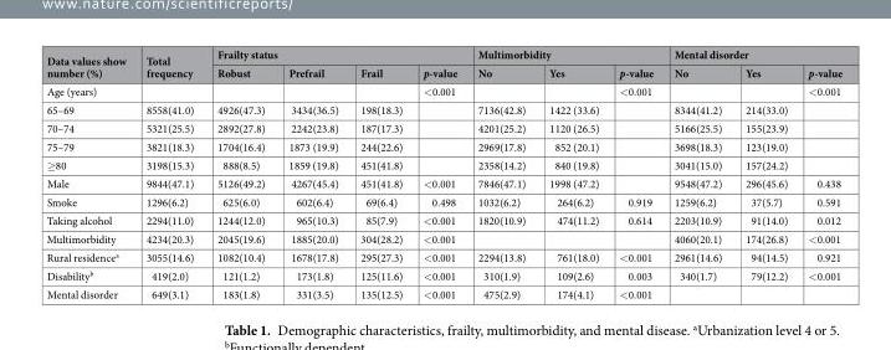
<table><thead><tr><td rowspan="2">Data values show number (%)</td><td rowspan="2">Total frequency</td><td colspan="4">Frailty status</td><td colspan="3">Multimorbidity</td><td colspan="3">Mental disorder</td></tr><tr><td>Robust</td><td>Prefrail</td><td>Frail</td><td>p-value</td><td>No</td><td>Yes</td><td>p-value</td><td>No</td><td>Yes</td><td>p-value</td></tr></thead><tbody><tr><td>Age (years)</td><td></td><td></td><td></td><td></td><td>&lt;0.001</td><td></td><td></td><td>&lt;0.001</td><td></td><td></td><td>&lt;0.001</td></tr><tr><td>65–69</td><td>8558(41.0)</td><td>4926(47.3)</td><td>3434(36.5)</td><td>198(18.3)</td><td></td><td>7136(42.8)</td><td>1422 (33.6)</td><td></td><td>8344(41.2)</td><td>214(33.0)</td><td></td></tr><tr><td>70–74</td><td>5321(25.5)</td><td>2892(27.8)</td><td>2242(23.8)</td><td>187(17.3)</td><td></td><td>4201(25.2)</td><td>1120 (26.5)</td><td></td><td>5166(25.5)</td><td>155(23.9)</td><td></td></tr><tr><td>75–79</td><td>3821(18.3)</td><td>1704(16.4)</td><td>1873 (19.9)</td><td>244(22.6)</td><td></td><td>2969(17.8)</td><td>852 (20.1)</td><td></td><td>3698(18.3)</td><td>123(19.0)</td><td></td></tr><tr><td>≥80</td><td>3198(15.3)</td><td>888(8.5)</td><td>1859 (19.8)</td><td>451(41.8)</td><td></td><td>2358(14.2)</td><td>840 (19.8)</td><td></td><td>3041(15.0)</td><td>157(24.2)</td><td></td></tr><tr><td>Male</td><td>9844(47.1)</td><td>5126(49.2)</td><td>4267(45.4)</td><td>451(41.8)</td><td>&lt;0.001</td><td>7846(47.1)</td><td>1998 (47.2)</td><td></td><td>9548(47.2)</td><td>296(45.6)</td><td>0.438</td></tr><tr><td>Smoke</td><td>1296(6.2)</td><td>625(6.0)</td><td>602(6.4)</td><td>69(6.4)</td><td>0.498</td><td>1032(6.2)</td><td>264(6.2)</td><td>0.919</td><td>1259(6.2)</td><td>37(5.7)</td><td>0.591</td></tr><tr><td>Taking alcohol</td><td>2294(11.0)</td><td>1244(12.0)</td><td>965(10.3)</td><td>85(7.9)</td><td>&lt;0.001</td><td>1820(10.9)</td><td>474(11.2)</td><td>0.614</td><td>2203(10.9)</td><td>91(14.0)</td><td>0.012</td></tr><tr><td>Multimorbidity</td><td>4234(20.3)</td><td>2045(19.6)</td><td>1885(20.0)</td><td>304(28.2)</td><td>&lt;0.001</td><td></td><td></td><td></td><td>4060(20.1)</td><td>174(26.8)</td><td>&lt;0.001</td></tr><tr><td>Rural residence<sup>a</sup></td><td>3055(14.6)</td><td>1082(10.4)</td><td>1678(17.8)</td><td>295(27.3)</td><td>&lt;0.001</td><td>2294(13.8)</td><td>761(18.0)</td><td>&lt;0.001</td><td>2961(14.6)</td><td>94(14.5)</td><td>0.921</td></tr><tr><td>Disability<sup>b</sup></td><td>419(2.0)</td><td>121(1.2)</td><td>173(1.8)</td><td>125(11.6)</td><td>&lt;0.001</td><td>310(1.9)</td><td>109(2.6)</td><td>0.003</td><td>340(1.7)</td><td>79(12.2)</td><td>&lt;0.001</td></tr><tr><td>Mental disorder</td><td>649(3.1)</td><td>183(1.8)</td><td>331(3.5)</td><td>135(12.5)</td><td>&lt;0.001</td><td>475(2.9)</td><td>174(4.1)</td><td>&lt;0.001</td><td></td><td></td><td></td></tr></tbody></table>